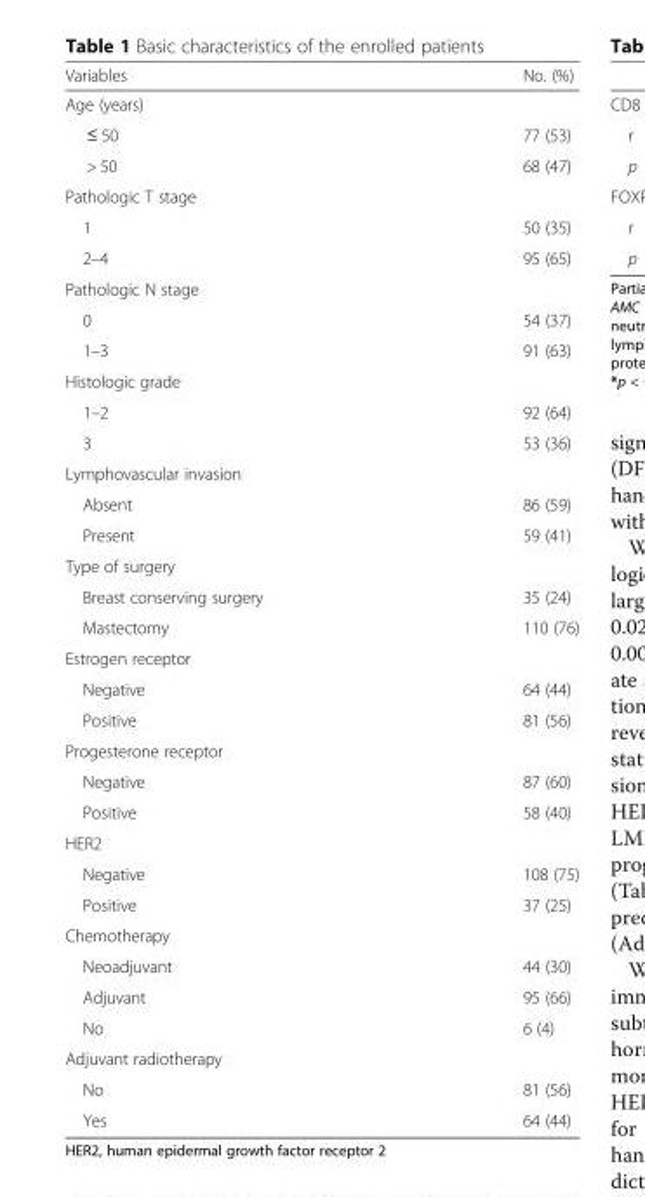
<table><thead><tr><td>Variables</td><td>No. (%)</td></tr></thead><tbody><tr><td colspan="2">Age (years)</td></tr><tr><td>≤ 50</td><td>77 (53)</td></tr><tr><td>&gt; 50</td><td>68 (47)</td></tr><tr><td colspan="2">Pathologic T stage</td></tr><tr><td>1</td><td>50 (35)</td></tr><tr><td>2–4</td><td>95 (65)</td></tr><tr><td colspan="2">Pathologic N stage</td></tr><tr><td>0</td><td>54 (37)</td></tr><tr><td>1–3</td><td>91 (63)</td></tr><tr><td colspan="2">Histologic grade</td></tr><tr><td>1–2</td><td>92 (64)</td></tr><tr><td>3</td><td>53 (36)</td></tr><tr><td colspan="2">Lymphovascular invasion</td></tr><tr><td>Absent</td><td>86 (59)</td></tr><tr><td>Present</td><td>59 (41)</td></tr><tr><td colspan="2">Type of surgery</td></tr><tr><td>Breast conserving surgery</td><td>35 (24)</td></tr><tr><td>Mastectomy</td><td>110 (76)</td></tr><tr><td colspan="2">Estrogen receptor</td></tr><tr><td>Negative</td><td>64 (44)</td></tr><tr><td>Positive</td><td>81 (56)</td></tr><tr><td colspan="2">Progesterone receptor</td></tr><tr><td>Negative</td><td>87 (60)</td></tr><tr><td>Positive</td><td>58 (40)</td></tr><tr><td colspan="2">HER2</td></tr><tr><td>Negative</td><td>108 (75)</td></tr><tr><td>Positive</td><td>37 (25)</td></tr><tr><td colspan="2">Chemotherapy</td></tr><tr><td>Neoadjuvant</td><td>44 (30)</td></tr><tr><td>Adjuvant</td><td>95 (66)</td></tr><tr><td>No</td><td>6 (4)</td></tr><tr><td colspan="2">Adjuvant radiotherapy</td></tr><tr><td>No</td><td>81 (56)</td></tr><tr><td>Yes</td><td>64 (44)</td></tr></tbody></table>